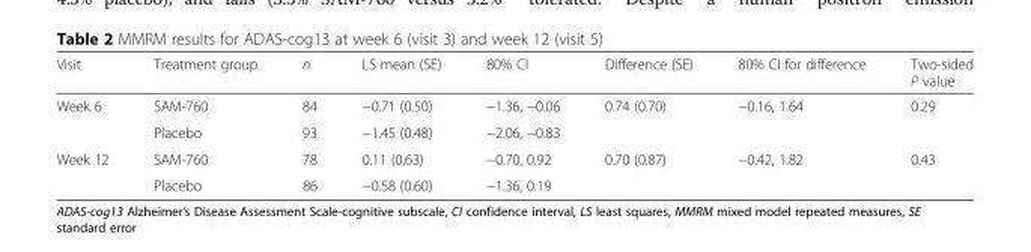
<table><thead><tr><td>Visit</td><td>Treatment group</td><td>n</td><td>LS mean (SE)</td><td>80% CI</td><td>Difference (SE)</td><td>80% CI for difference</td><td>Two-sided P value</td></tr></thead><tbody><tr><td rowspan="2">Week 6</td><td>SAM-760</td><td>84</td><td>−0.71 (0.50)</td><td>−1.36, −0.06</td><td rowspan="2">0.74 (0.70)</td><td rowspan="2">−0.16, 1.64</td><td rowspan="2">0.29</td></tr><tr><td>Placebo</td><td>93</td><td>−1.45 (0.48)</td><td>−2.06, −0.83</td></tr><tr><td rowspan="2">Week 12</td><td>SAM-760</td><td>78</td><td>0.11 (0.63)</td><td>−0.70, 0.92</td><td rowspan="2">0.70 (0.87)</td><td rowspan="2">−0.42, 1.82</td><td rowspan="2">0.43</td></tr><tr><td>Placebo</td><td>86</td><td>−0.58 (0.60)</td><td>−1.36, 0.19</td></tr></tbody></table>